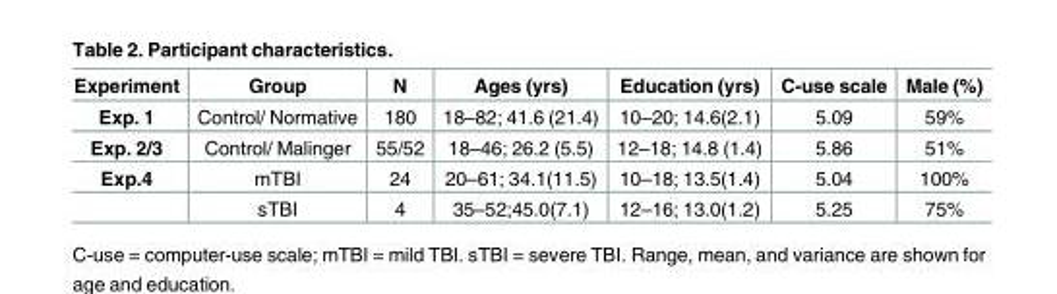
<table><thead><tr><td>Experiment</td><td>Group</td><td>N</td><td>Ages (yrs)</td><td>Education (yrs)</td><td>C-use scale</td><td>Male (%)</td></tr></thead><tbody><tr><td>Exp. 1</td><td>Control/ Normative</td><td>180</td><td>18–82; 41.6 (21.4)</td><td>10–20; 14.6(2.1)</td><td>5.09</td><td>59%</td></tr><tr><td>Exp. 2/3</td><td>Control/ Malinger</td><td>55/52</td><td>18–46; 26.2 (5.5)</td><td>12–18; 14.8 (1.4)</td><td>5.86</td><td>51%</td></tr><tr><td rowspan="2">Exp.4</td><td>mTBI</td><td>24</td><td>20–61; 34.1(11.5)</td><td>10–18; 13.5(1.4)</td><td>5.04</td><td>100%</td></tr><tr><td>sTBI</td><td>4</td><td>35–52;45.0(7.1)</td><td>12–16; 13.0(1.2)</td><td>5.25</td><td>75%</td></tr></tbody></table>